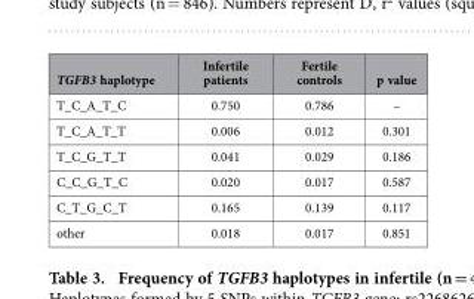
<table><thead><tr><td>TGFB3 haplotype</td><td>Infertile patients</td><td>Fertile controls</td><td>p value</td></tr></thead><tbody><tr><td>T_C_A_T_C</td><td>0.750</td><td>0.786</td><td>–</td></tr><tr><td>T_C_A_T_T</td><td>0.006</td><td>0.012</td><td>0.301</td></tr><tr><td>T_C_G_T_T</td><td>0.041</td><td>0.029</td><td>0.186</td></tr><tr><td>C_C_G_T_C</td><td>0.020</td><td>0.017</td><td>0.587</td></tr><tr><td>C_T_G_C_T</td><td>0.165</td><td>0.139</td><td>0.117</td></tr><tr><td>other</td><td>0.018</td><td>0.017</td><td>0.851</td></tr></tbody></table>